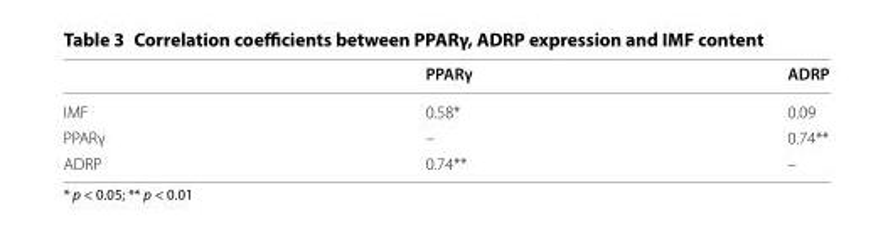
<table><thead><tr><td></td><td>PPARγ</td><td>ADRP</td></tr></thead><tbody><tr><td>IMF</td><td>0.58*</td><td>0.09</td></tr><tr><td>PPARγ</td><td>–</td><td>0.74**</td></tr><tr><td>ADRP</td><td>0.74**</td><td>–</td></tr></tbody></table>